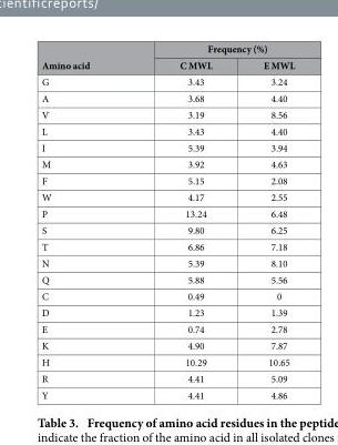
<table><thead><tr><td rowspan="2">Amino acid</td><td colspan="2">Frequency (%)</td></tr><tr><td>C MWL</td><td>E MWL</td></tr></thead><tbody><tr><td>G</td><td>3.43</td><td>3.24</td></tr><tr><td>A</td><td>3.68</td><td>4.40</td></tr><tr><td>V</td><td>3.19</td><td>8.56</td></tr><tr><td>L</td><td>3.43</td><td>4.40</td></tr><tr><td>I</td><td>5.39</td><td>3.94</td></tr><tr><td>M</td><td>3.92</td><td>4.63</td></tr><tr><td>F</td><td>5.15</td><td>2.08</td></tr><tr><td>W</td><td>4.17</td><td>2.55</td></tr><tr><td>P</td><td>13.24</td><td>6.48</td></tr><tr><td>S</td><td>9.80</td><td>6.25</td></tr><tr><td>T</td><td>6.86</td><td>7.18</td></tr><tr><td>N</td><td>5.39</td><td>8.10</td></tr><tr><td>Q</td><td>5.88</td><td>5.56</td></tr><tr><td>C</td><td>0.49</td><td>0</td></tr><tr><td>D</td><td>1.23</td><td>1.39</td></tr><tr><td>E</td><td>0.74</td><td>2.78</td></tr><tr><td>K</td><td>4.90</td><td>7.87</td></tr><tr><td>H</td><td>10.29</td><td>10.65</td></tr><tr><td>R</td><td>4.41</td><td>5.09</td></tr><tr><td>Y</td><td>4.41</td><td>4.86</td></tr></tbody></table>